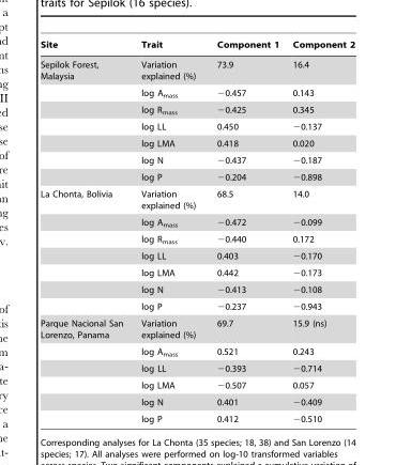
<table><thead><tr><td>Site</td><td>Trait</td><td>Component 1</td><td>Component 2</td></tr></thead><tbody><tr><td rowspan="7">Sepilok Forest, Malaysia</td><td>Variation explained (%)</td><td>73.9</td><td>16.4</td></tr><tr><td>log A<sub>mass</sub></td><td>−0.457</td><td>0.143</td></tr><tr><td>log R<sub>mass</sub></td><td>−0.425</td><td>0.345</td></tr><tr><td>log LL</td><td>0.450</td><td>−0.137</td></tr><tr><td>log LMA</td><td>0.418</td><td>0.020</td></tr><tr><td>log N</td><td>−0.437</td><td>−0.187</td></tr><tr><td>log P</td><td>−0.204</td><td>−0.898</td></tr><tr><td rowspan="7">La Chonta, Bolivia</td><td>Variation explained (%)</td><td>68.5</td><td>14.0</td></tr><tr><td>log A<sub>mass</sub></td><td>−0.472</td><td>−0.099</td></tr><tr><td>log R<sub>mass</sub></td><td>−0.440</td><td>0.172</td></tr><tr><td>log LL</td><td>0.403</td><td>−0.170</td></tr><tr><td>log LMA</td><td>0.442</td><td>−0.173</td></tr><tr><td>log N</td><td>−0.413</td><td>−0.108</td></tr><tr><td>log P</td><td>−0.237</td><td>−0.943</td></tr><tr><td rowspan="6">Parque Nacional San Lorenzo, Panama</td><td>Variation explained (%)</td><td>69.7</td><td>15.9 (ns)</td></tr><tr><td>log A<sub>mass</sub></td><td>0.521</td><td>0.243</td></tr><tr><td>log LL</td><td>−0.393</td><td>−0.714</td></tr><tr><td>log LMA</td><td>−0.507</td><td>0.057</td></tr><tr><td>log N</td><td>0.401</td><td>−0.409</td></tr><tr><td>log P</td><td>0.412</td><td>−0.510</td></tr></tbody></table>